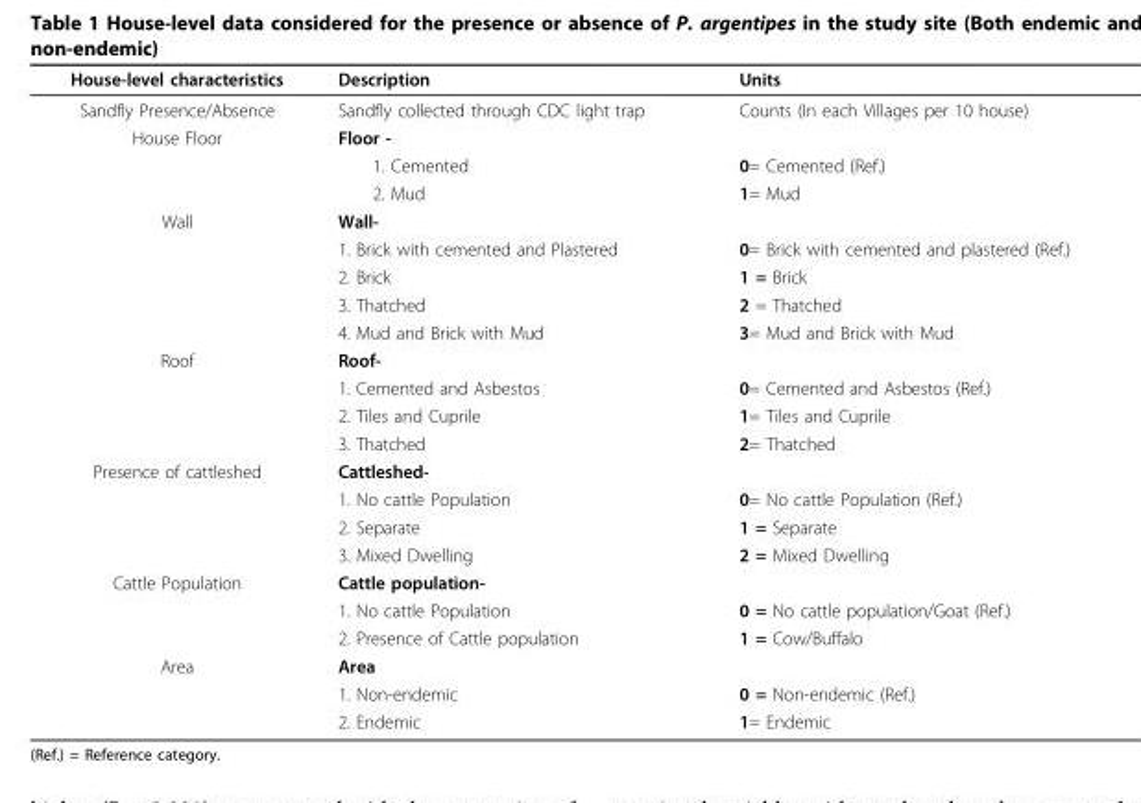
<table><thead><tr><td>House-level characteristics</td><td>Description</td><td>Units</td></tr></thead><tbody><tr><td>Sandfly Presence/Absence</td><td>Sandfly collected through CDC light trap</td><td>Counts (In each Villages per 10 house)</td></tr><tr><td rowspan="3">House Floor</td><td>Floor -</td><td></td></tr><tr><td>1. Cemented</td><td>0= Cemented (Ref.)</td></tr><tr><td>2. Mud</td><td>1= Mud</td></tr><tr><td rowspan="5">Wall</td><td>Wall-</td><td></td></tr><tr><td>1. Brick with cemented and Plastered</td><td>0= Brick with cemented and plastered (Ref.)</td></tr><tr><td>2. Brick</td><td>1 = Brick</td></tr><tr><td>3. Thatched</td><td>2 = Thatched</td></tr><tr><td>4. Mud and Brick with Mud</td><td>3= Mud and Brick with Mud</td></tr><tr><td rowspan="4">Roof</td><td>Roof-</td><td></td></tr><tr><td>1. Cemented and Asbestos</td><td>0= Cemented and Asbestos (Ref.)</td></tr><tr><td>2. Tiles and Cuprile</td><td>1= Tiles and Cuprile</td></tr><tr><td>3. Thatched</td><td>2= Thatched</td></tr><tr><td rowspan="4">Presence of cattleshed</td><td>Cattleshed-</td><td></td></tr><tr><td>1. No cattle Population</td><td>0= No cattle Population (Ref.)</td></tr><tr><td>2. Separate</td><td>1 = Separate</td></tr><tr><td>3. Mixed Dwelling</td><td>2 = Mixed Dwelling</td></tr><tr><td rowspan="3">Cattle Population</td><td>Cattle population-</td><td></td></tr><tr><td>1. No cattle Population</td><td>0 = No cattle population/Goat (Ref.)</td></tr><tr><td>2. Presence of Cattle population</td><td>1 = Cow/Buffalo</td></tr><tr><td rowspan="3">Area</td><td>Area</td><td></td></tr><tr><td>1. Non-endemic</td><td>0 = Non-endemic (Ref.)</td></tr><tr><td>2. Endemic</td><td>1= Endemic</td></tr></tbody></table>